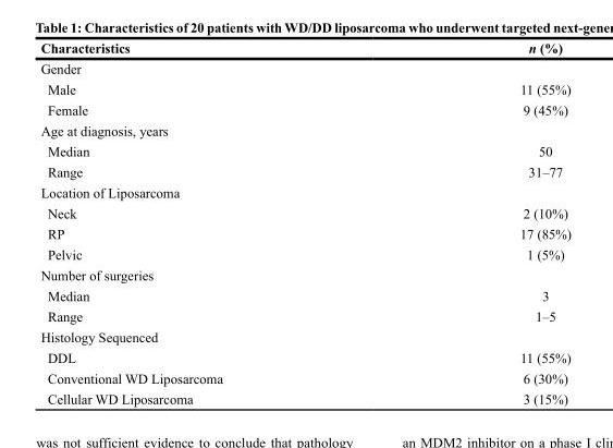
<table><thead><tr><td>Characteristics</td><td>n (%)</td></tr></thead><tbody><tr><td colspan="2">Gender</td></tr><tr><td>Male</td><td>11 (55%)</td></tr><tr><td>Female</td><td>9 (45%)</td></tr><tr><td colspan="2">Age at diagnosis, years</td></tr><tr><td>Median</td><td>50</td></tr><tr><td>Range</td><td>31–77</td></tr><tr><td colspan="2">Location of Liposarcoma</td></tr><tr><td>Neck</td><td>2 (10%)</td></tr><tr><td>RP</td><td>17 (85%)</td></tr><tr><td>Pelvic</td><td>1 (5%)</td></tr><tr><td colspan="2">Number of surgeries</td></tr><tr><td>Median</td><td>3</td></tr><tr><td>Range</td><td>1–5</td></tr><tr><td colspan="2">Histology Sequenced</td></tr><tr><td>DDL</td><td>11 (55%)</td></tr><tr><td>Conventional WD Liposarcoma</td><td>6 (30%)</td></tr><tr><td>Cellular WD Liposarcoma</td><td>3 (15%)</td></tr></tbody></table>